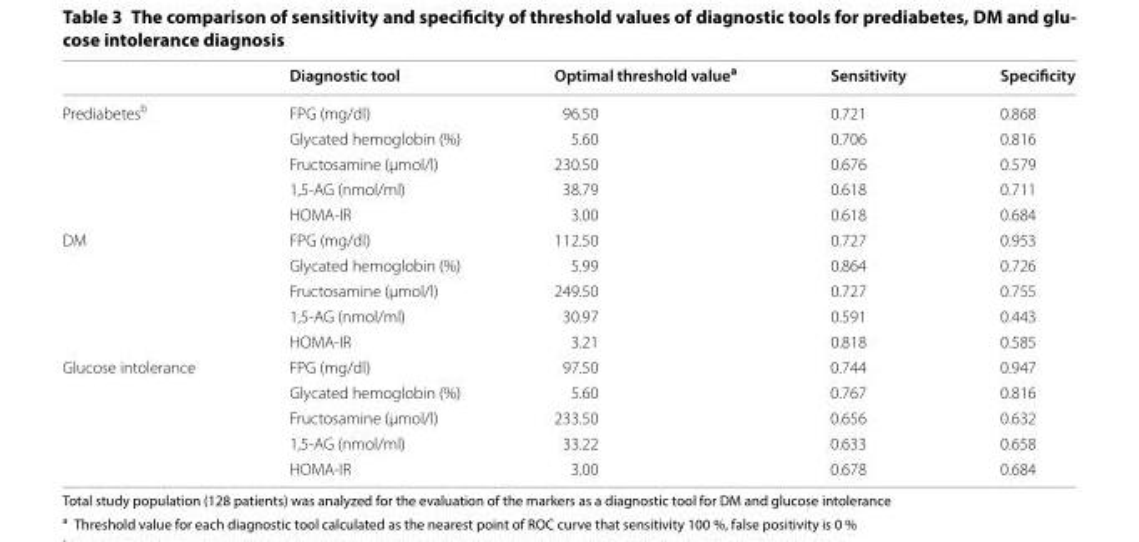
<table><thead><tr><td></td><td>Diagnostic tool</td><td>Optimal threshold value<sup>a</sup></td><td>Sensitivity</td><td>Specificity</td></tr></thead><tbody><tr><td rowspan="5">Prediabetes<sup>b</sup></td><td>FPG (mg/dl)</td><td>96.50</td><td>0.721</td><td>0.868</td></tr><tr><td>Glycated hemoglobin (%)</td><td>5.60</td><td>0.706</td><td>0.816</td></tr><tr><td>Fructosamine (µmol/l)</td><td>230.50</td><td>0.676</td><td>0.579</td></tr><tr><td>1,5-AG (nmol/ml)</td><td>38.79</td><td>0.618</td><td>0.711</td></tr><tr><td>HOMA-IR</td><td>3.00</td><td>0.618</td><td>0.684</td></tr><tr><td rowspan="5">DM</td><td>FPG (mg/dl)</td><td>112.50</td><td>0.727</td><td>0.953</td></tr><tr><td>Glycated hemoglobin (%)</td><td>5.99</td><td>0.864</td><td>0.726</td></tr><tr><td>Fructosamine (µmol/l)</td><td>249.50</td><td>0.727</td><td>0.755</td></tr><tr><td>1,5-AG (nmol/ml)</td><td>30.97</td><td>0.591</td><td>0.443</td></tr><tr><td>HOMA-IR</td><td>3.21</td><td>0.818</td><td>0.585</td></tr><tr><td rowspan="5">Glucose intolerance</td><td>FPG (mg/dl)</td><td>97.50</td><td>0.744</td><td>0.947</td></tr><tr><td>Glycated hemoglobin (%)</td><td>5.60</td><td>0.767</td><td>0.816</td></tr><tr><td>Fructosamine (µmol/l)</td><td>233.50</td><td>0.656</td><td>0.632</td></tr><tr><td>1,5-AG (nmol/ml)</td><td>33.22</td><td>0.633</td><td>0.658</td></tr><tr><td>HOMA-IR</td><td>3.00</td><td>0.678</td><td>0.684</td></tr></tbody></table>